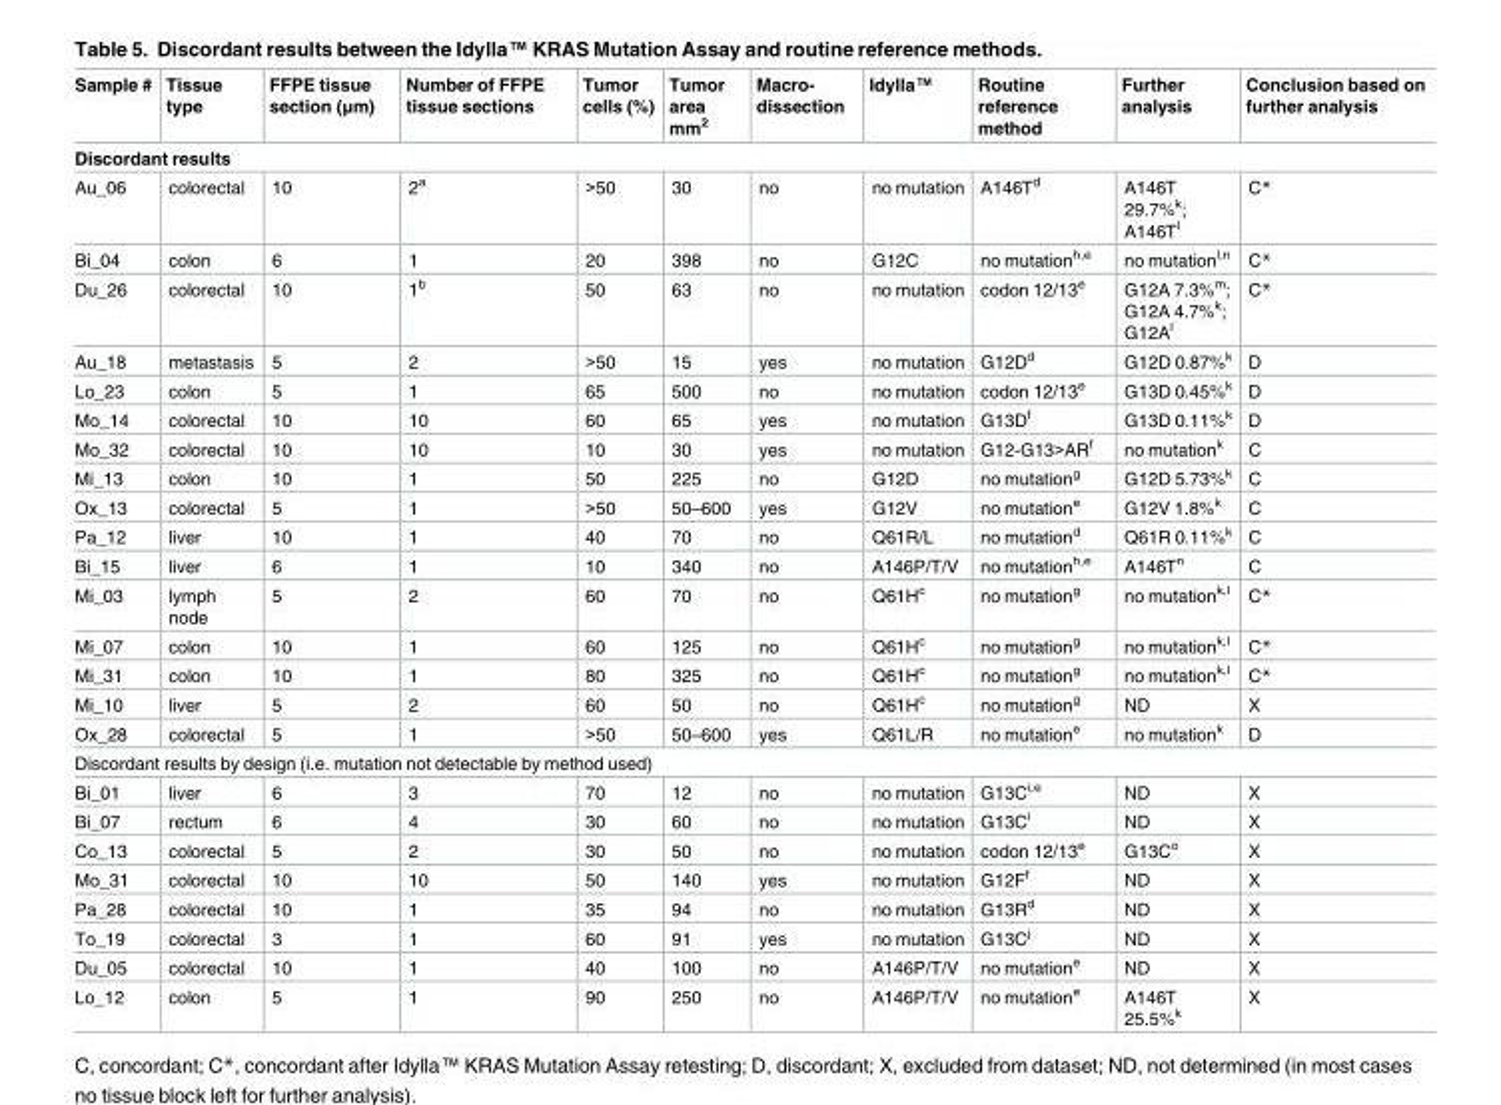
<table><thead><tr><td>Sample #</td><td>Tissue type</td><td>FFPE tissue section (μm)</td><td>Number of FFPE tissue sections</td><td>Tumor cells (%)</td><td>Tumor area mm<sup>2</sup></td><td>Macro- dissection</td><td>Idylla<sup>™</sup></td><td>Routine reference method</td><td>Further analysis</td><td>Conclusion based on further analysis</td></tr></thead><tbody><tr><td colspan="11">Discordant results</td></tr><tr><td>Au_06</td><td>colorectal</td><td>10</td><td>2<sup>a</sup></td><td>&gt;50</td><td>30</td><td>no</td><td>no mutation</td><td>A146T<sup>d</sup></td><td>A146T 29.7%<sup>k</sup>; A146T<sup>l</sup></td><td>C*</td></tr><tr><td>Bi_04</td><td>colon</td><td>6</td><td>1</td><td>20</td><td>398</td><td>no</td><td>G12C</td><td>no mutation<sup>h,e</sup></td><td>no mutation<sup>l,n</sup></td><td>C*</td></tr><tr><td>Du_26</td><td>colorectal</td><td>10</td><td>1<sup>b</sup></td><td>50</td><td>63</td><td>no</td><td>no mutation</td><td>codon 12/13<sup>e</sup></td><td>G12A 7.3%<sup>m</sup>; G12A 4.7%<sup>k</sup>; G12A<sup>l</sup></td><td>C*</td></tr><tr><td>Au_18</td><td>metastasis</td><td>5</td><td>2</td><td>&gt;50</td><td>15</td><td>yes</td><td>no mutation</td><td>G12D<sup>d</sup></td><td>G12D 0.87%<sup>k</sup></td><td>D</td></tr><tr><td>Lo_23</td><td>colon</td><td>5</td><td>1</td><td>65</td><td>500</td><td>no</td><td>no mutation</td><td>codon 12/13<sup>e</sup></td><td>G13D 0.45%<sup>k</sup></td><td>D</td></tr><tr><td>Mo_14</td><td>colorectal</td><td>10</td><td>10</td><td>60</td><td>65</td><td>yes</td><td>no mutation</td><td>G13D<sup>f</sup></td><td>G13D 0.11%<sup>k</sup></td><td>D</td></tr><tr><td>Mo_32</td><td>colorectal</td><td>10</td><td>10</td><td>10</td><td>30</td><td>yes</td><td>no mutation</td><td>G12-G13&gt;AR<sup>f</sup></td><td>no mutation<sup>k</sup></td><td>C</td></tr><tr><td>Mi_13</td><td>colon</td><td>10</td><td>1</td><td>50</td><td>225</td><td>no</td><td>G12D</td><td>no mutation<sup>g</sup></td><td>G12D 5.73%<sup>k</sup></td><td>C</td></tr><tr><td>Ox_13</td><td>colorectal</td><td>5</td><td>1</td><td>&gt;50</td><td>50–600</td><td>yes</td><td>G12V</td><td>no mutation<sup>e</sup></td><td>G12V 1.8%<sup>k</sup></td><td>C</td></tr><tr><td>Pa_12</td><td>liver</td><td>10</td><td>1</td><td>40</td><td>70</td><td>no</td><td>Q61R/L</td><td>no mutation<sup>d</sup></td><td>Q61R 0.11%<sup>k</sup></td><td>C</td></tr><tr><td>Bi_15</td><td>liver</td><td>6</td><td>1</td><td>10</td><td>340</td><td>no</td><td>A146P/T/V</td><td>no mutation<sup>h,e</sup></td><td>A146T<sup>n</sup></td><td>C</td></tr><tr><td>Mi_03</td><td>lymph node</td><td>5</td><td>2</td><td>60</td><td>70</td><td>no</td><td>Q61H<sup>c</sup></td><td>no mutation<sup>g</sup></td><td>no mutation<sup>k,l</sup></td><td>C*</td></tr><tr><td>Mi_07</td><td>colon</td><td>10</td><td>1</td><td>60</td><td>125</td><td>no</td><td>Q61H<sup>c</sup></td><td>no mutation<sup>g</sup></td><td>no mutation<sup>k,l</sup></td><td>C*</td></tr><tr><td>Mi_31</td><td>colon</td><td>10</td><td>1</td><td>80</td><td>325</td><td>no</td><td>Q61H<sup>c</sup></td><td>no mutation<sup>g</sup></td><td>no mutation<sup>k,l</sup></td><td>C*</td></tr><tr><td>Mi_10</td><td>liver</td><td>5</td><td>2</td><td>60</td><td>50</td><td>no</td><td>Q61H<sup>c</sup></td><td>no mutation<sup>g</sup></td><td>ND</td><td>X</td></tr><tr><td>Ox_28</td><td>colorectal</td><td>5</td><td>1</td><td>&gt;50</td><td>50–600</td><td>yes</td><td>Q61L/R</td><td>no mutation<sup>e</sup></td><td>no mutation<sup>k</sup></td><td>D</td></tr><tr><td colspan="11">Discordant results by design (i.e. mutation not detectable by method used)</td></tr><tr><td>Bi_01</td><td>liver</td><td>6</td><td>3</td><td>70</td><td>12</td><td>no</td><td>no mutation</td><td>G13C<sup>i,e</sup></td><td>ND</td><td>X</td></tr><tr><td>Bi_07</td><td>rectum</td><td>6</td><td>4</td><td>30</td><td>60</td><td>no</td><td>no mutation</td><td>G13C<sup>i</sup></td><td>ND</td><td>X</td></tr><tr><td>Co_13</td><td>colorectal</td><td>5</td><td>2</td><td>30</td><td>50</td><td>no</td><td>no mutation</td><td>codon 12/13<sup>e</sup></td><td>G13C<sup>o</sup></td><td>X</td></tr><tr><td>Mo_31</td><td>colorectal</td><td>10</td><td>10</td><td>50</td><td>140</td><td>yes</td><td>no mutation</td><td>G12F<sup>f</sup></td><td>ND</td><td>X</td></tr><tr><td>Pa_28</td><td>colorectal</td><td>10</td><td>1</td><td>35</td><td>94</td><td>no</td><td>no mutation</td><td>G13R<sup>d</sup></td><td>ND</td><td>X</td></tr><tr><td>To_19</td><td>colorectal</td><td>3</td><td>1</td><td>60</td><td>91</td><td>yes</td><td>no mutation</td><td>G13C<sup>j</sup></td><td>ND</td><td>X</td></tr><tr><td>Du_05</td><td>colorectal</td><td>10</td><td>1</td><td>40</td><td>100</td><td>no</td><td>A146P/T/V</td><td>no mutation<sup>e</sup></td><td>ND</td><td>X</td></tr><tr><td>Lo_12</td><td>colon</td><td>5</td><td>1</td><td>90</td><td>250</td><td>no</td><td>A146P/T/V</td><td>no mutation<sup>e</sup></td><td>A146T 25.5%<sup>k</sup></td><td>X</td></tr></tbody></table>